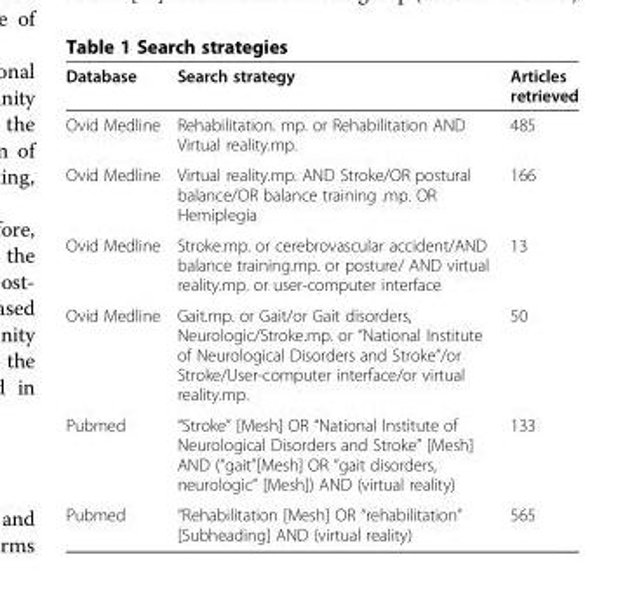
<table><thead><tr><td>Database</td><td>Search strategy</td><td>Articles retrieved</td></tr></thead><tbody><tr><td>Ovid Medline</td><td>Rehabilitation. mp. or Rehabilitation AND Virtual reality.mp.</td><td>485</td></tr><tr><td>Ovid Medline</td><td>Virtual reality.mp. AND Stroke/OR postural balance/OR balance training .mp. OR Hemiplegia</td><td>166</td></tr><tr><td>Ovid Medline</td><td>Stroke.mp. or cerebrovascular accident/AND balance training.mp. or posture/ AND virtual reality.mp. or user-computer interface</td><td>13</td></tr><tr><td>Ovid Medline</td><td>Gait.mp. or Gait/or Gait disorders, Neurologic/Stroke.mp. or “National Institute of Neurological Disorders and Stroke”/or Stroke/User-computer interface/or virtual reality.mp.</td><td>50</td></tr><tr><td>Pubmed</td><td>“Stroke” [Mesh] OR “National Institute of Neurological Disorders and Stroke” [Mesh] AND (“gait”[Mesh] OR “gait disorders, neurologic” [Mesh]) AND (virtual reality)</td><td>133</td></tr><tr><td>Pubmed</td><td>“Rehabilitation [Mesh] OR “rehabilitation” [Subheading] AND (virtual reality)</td><td>565</td></tr></tbody></table>